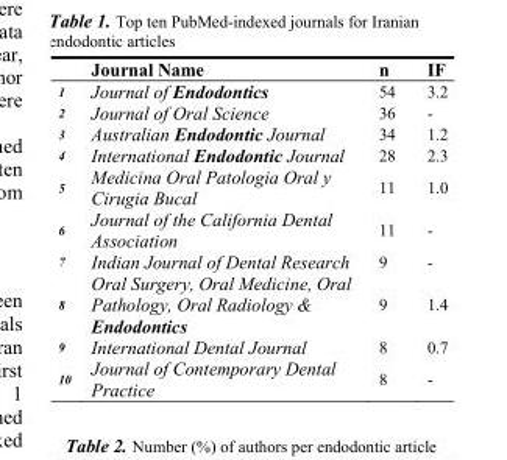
<table><thead><tr><td></td><td>Journal Name</td><td>n</td><td>IF</td></tr></thead><tbody><tr><td>1</td><td>Journal of Endodontics</td><td>54</td><td>3.2</td></tr><tr><td>2</td><td>Journal of Oral Science</td><td>36</td><td>-</td></tr><tr><td>3</td><td>Australian Endodontic Journal</td><td>34</td><td>1.2</td></tr><tr><td>4</td><td>International Endodontic Journal</td><td>28</td><td>2.3</td></tr><tr><td>5</td><td>Medicina Oral Patologia Oral y Cirugia Bucal</td><td>11</td><td>1.0</td></tr><tr><td>6</td><td>Journal of the California Dental Association</td><td>11</td><td>-</td></tr><tr><td>7</td><td>Indian Journal of Dental Research</td><td>9</td><td>-</td></tr><tr><td>8</td><td>Oral Surgery, Oral Medicine, Oral Pathology, Oral Radiology &amp; Endodontics</td><td>9</td><td>1.4</td></tr><tr><td>9</td><td>International Dental Journal</td><td>8</td><td>0.7</td></tr><tr><td>10</td><td>Journal of Contemporary Dental Practice</td><td>8</td><td>-</td></tr></tbody></table>